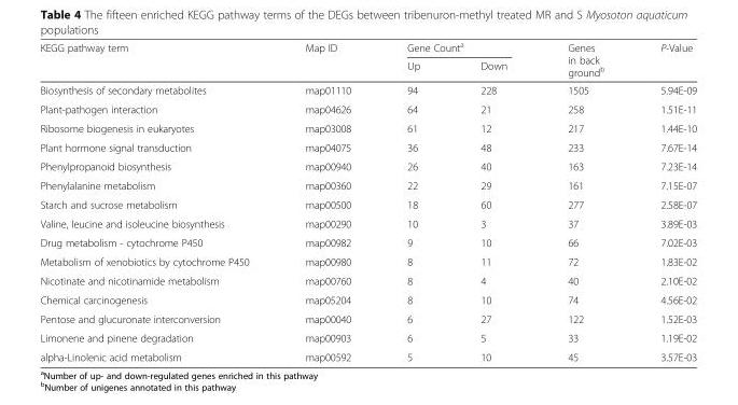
<table><thead><tr><td rowspan="2">KEGG pathway term</td><td rowspan="2">Map ID</td><td colspan="2">Gene Count<sup>a</sup></td><td rowspan="2">Genes in back ground<sup>b</sup></td><td rowspan="2">P-Value</td></tr><tr><td>Up</td><td>Down</td></tr></thead><tbody><tr><td>Biosynthesis of secondary metabolites</td><td>map01110</td><td>94</td><td>228</td><td>1505</td><td>5.94E-09</td></tr><tr><td>Plant-pathogen interaction</td><td>map04626</td><td>64</td><td>21</td><td>258</td><td>1.51E-11</td></tr><tr><td>Ribosome biogenesis in eukaryotes</td><td>map03008</td><td>61</td><td>12</td><td>217</td><td>1.44E-10</td></tr><tr><td>Plant hormone signal transduction</td><td>map04075</td><td>36</td><td>48</td><td>233</td><td>7.67E-14</td></tr><tr><td>Phenylpropanoid biosynthesis</td><td>map00940</td><td>26</td><td>40</td><td>163</td><td>7.23E-14</td></tr><tr><td>Phenylalanine metabolism</td><td>map00360</td><td>22</td><td>29</td><td>161</td><td>7.15E-07</td></tr><tr><td>Starch and sucrose metabolism</td><td>map00500</td><td>18</td><td>60</td><td>277</td><td>2.58E-07</td></tr><tr><td>Valine, leucine and isoleucine biosynthesis</td><td>map00290</td><td>10</td><td>3</td><td>37</td><td>3.89E-03</td></tr><tr><td>Drug metabolism - cytochrome P450</td><td>map00982</td><td>9</td><td>10</td><td>66</td><td>7.02E-03</td></tr><tr><td>Metabolism of xenobiotics by cytochrome P450</td><td>map00980</td><td>8</td><td>11</td><td>72</td><td>1.83E-02</td></tr><tr><td>Nicotinate and nicotinamide metabolism</td><td>map00760</td><td>8</td><td>4</td><td>40</td><td>2.10E-02</td></tr><tr><td>Chemical carcinogenesis</td><td>map05204</td><td>8</td><td>10</td><td>74</td><td>4.56E-02</td></tr><tr><td>Pentose and glucuronate interconversion</td><td>map00040</td><td>6</td><td>27</td><td>122</td><td>1.52E-03</td></tr><tr><td>Limonene and pinene degradation</td><td>map00903</td><td>6</td><td>5</td><td>33</td><td>1.19E-02</td></tr><tr><td>alpha-Linolenic acid metabolism</td><td>map00592</td><td>5</td><td>10</td><td>45</td><td>3.57E-03</td></tr></tbody></table>